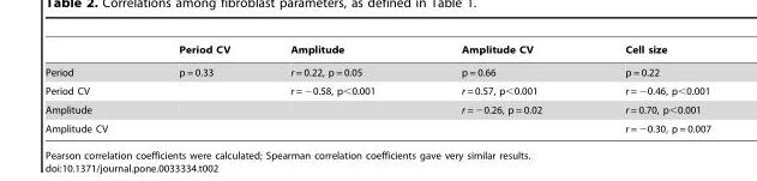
<table><thead><tr><td></td><td>Period CV</td><td>Amplitude</td><td>Amplitude CV</td><td>Cell size</td></tr></thead><tbody><tr><td>Period</td><td>p = 0.33</td><td>r = 0.22, p = 0.05</td><td>p = 0.66</td><td>p = 0.22</td></tr><tr><td>Period CV</td><td></td><td>r = −0.58, p&lt;0.001</td><td>r = 0.57, p&lt;0.001</td><td>r = −0.46, p&lt;0.001</td></tr><tr><td>Amplitude</td><td></td><td></td><td>r = −0.26, p = 0.02</td><td>r = 0.70, p&lt;0.001</td></tr><tr><td>Amplitude CV</td><td></td><td></td><td></td><td>r = −0.30, p = 0.007</td></tr></tbody></table>